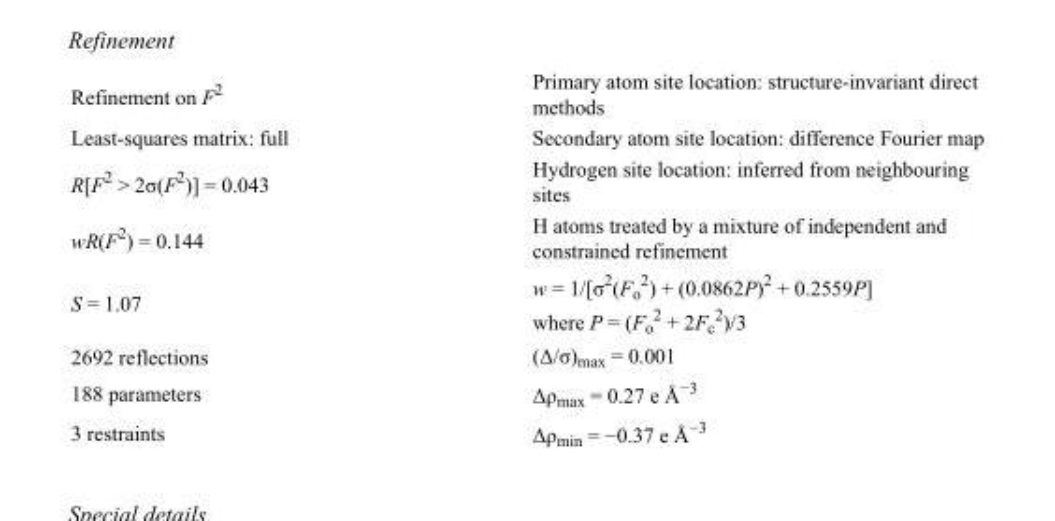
<table><tbody><tr><td>Refinement on F<sup>2</sup></td><td>Primary atom site location: structure-invariant direct methods</td></tr><tr><td>Least-squares matrix: full</td><td>Secondary atom site location: difference Fourier map</td></tr><tr><td>R[F<sup>2</sup> &gt; 2σ(F<sup>2</sup>)] = 0.043</td><td>Hydrogen site location: inferred from neighbouring sites</td></tr><tr><td>wR(F<sup>2</sup>) = 0.144</td><td>H atoms treated by a mixture of independent and constrained refinement</td></tr><tr><td>S = 1.07</td><td>w = 1/[σ<sup>2</sup>(F<sub>o</sub> <sup>2</sup>) + (0.0862P)<sup>2</sup> + 0.2559P] where P = (F<sub>o</sub> <sup>2</sup> + 2F<sub>c</sub> <sup>2</sup>)/3</td></tr><tr><td>2692 reflections</td><td>(Δ/σ)<sub>max</sub> = 0.001</td></tr><tr><td>188 parameters</td><td>Δρ<sub>max</sub> = 0.27 e Å<sup>−3</sup></td></tr><tr><td>3 restraints</td><td>Δρ<sub>min</sub> = −0.37 e Å<sup>−3</sup></td></tr></tbody></table>